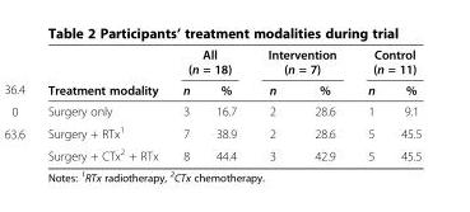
<table><thead><tr><td rowspan="2">Treatment modality</td><td colspan="2">All (n = 18)</td><td colspan="2">Intervention (n = 7)</td><td colspan="2">Control (n = 11)</td></tr><tr><td>n</td><td>%</td><td>n</td><td>%</td><td>n</td><td>%</td></tr></thead><tbody><tr><td>Surgery only</td><td>3</td><td>16.7</td><td>2</td><td>28.6</td><td>1</td><td>9.1</td></tr><tr><td>Surgery + RTx<sup>1</sup></td><td>7</td><td>38.9</td><td>2</td><td>28.6</td><td>5</td><td>45.5</td></tr><tr><td>Surgery + CTx<sup>2</sup> + RTx</td><td>8</td><td>44.4</td><td>3</td><td>42.9</td><td>5</td><td>45.5</td></tr></tbody></table>